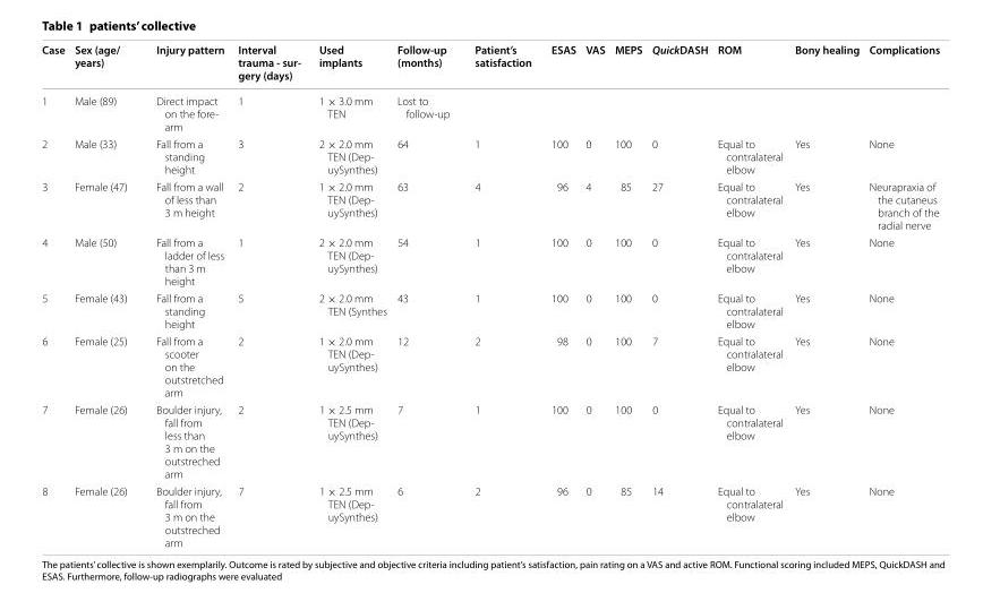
<table><thead><tr><td>Case</td><td>Sex (age/ years)</td><td>Injury pattern</td><td>Interval trauma - sur- gery (days)</td><td>Used implants</td><td>Follow-up (months)</td><td>Patient’s satisfaction</td><td>ESAS</td><td>VAS</td><td>MEPS</td><td>QuickDASH</td><td>ROM</td><td>Bony healing</td><td>Complications</td></tr></thead><tbody><tr><td>1</td><td>Male (89)</td><td>Direct impact on the fore- arm</td><td>1</td><td>1 × 3.0 mm TEN</td><td>Lost to follow-up</td><td></td><td></td><td></td><td></td><td></td><td></td><td></td><td></td></tr><tr><td>2</td><td>Male (33)</td><td>Fall from a standing height</td><td>3</td><td>2 × 2.0 mm TEN (Dep- uySynthes)</td><td>64</td><td>1</td><td>100</td><td>0</td><td>100</td><td>0</td><td>Equal to contralateral elbow</td><td>Yes</td><td>None</td></tr><tr><td>3</td><td>Female (47)</td><td>Fall from a wall of less than 3 m height</td><td>2</td><td>1 × 2.0 mm TEN (Dep- uySynthes)</td><td>63</td><td>4</td><td>96</td><td>4</td><td>85</td><td>27</td><td>Equal to contralateral elbow</td><td>Yes</td><td>Neurapraxia of the cutaneus branch of the radial nerve</td></tr><tr><td>4</td><td>Male (50)</td><td>Fall from a ladder of less than 3 m height</td><td>1</td><td>2 × 2.0 mm TEN (Dep- uySynthes)</td><td>54</td><td>1</td><td>100</td><td>0</td><td>100</td><td>0</td><td>Equal to contralateral elbow</td><td>Yes</td><td>None</td></tr><tr><td>5</td><td>Female (43)</td><td>Fall from a standing height</td><td>5</td><td>2 × 2.0 mm TEN (Synthes</td><td>43</td><td>1</td><td>100</td><td>0</td><td>100</td><td>0</td><td>Equal to contralateral elbow</td><td>Yes</td><td>None</td></tr><tr><td>6</td><td>Female (25)</td><td>Fall from a scooter on the outstretched arm</td><td>2</td><td>1 × 2.0 mm TEN (Dep- uySynthes)</td><td>12</td><td>2</td><td>98</td><td>0</td><td>100</td><td>7</td><td>Equal to contralateral elbow</td><td>Yes</td><td>None</td></tr><tr><td>7</td><td>Female (26)</td><td>Boulder injury, fall from less than 3 m on the outstreched arm</td><td>2</td><td>1 × 2.5 mm TEN (Dep- uySynthes)</td><td>7</td><td>1</td><td>100</td><td>0</td><td>100</td><td>0</td><td>Equal to contralateral elbow</td><td>Yes</td><td>None</td></tr><tr><td>8</td><td>Female (26)</td><td>Boulder injury, fall from 3 m on the outstreched arm</td><td>7</td><td>1 × 2.5 mm TEN (Dep- uySynthes)</td><td>6</td><td>2</td><td>96</td><td>0</td><td>85</td><td>14</td><td>Equal to contralateral elbow</td><td>Yes</td><td>None</td></tr></tbody></table>